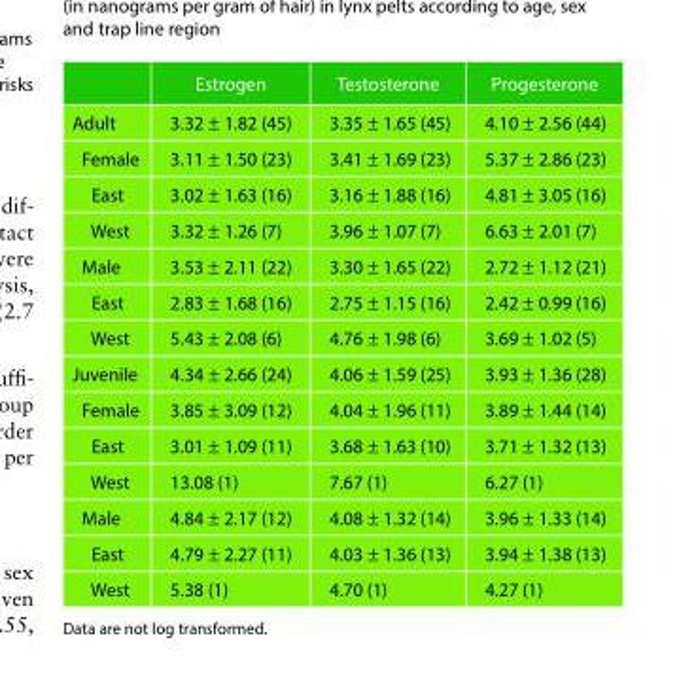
<table><thead><tr><td></td><td>Estrogen</td><td>Testosterone</td><td>Progesterone</td></tr></thead><tbody><tr><td>Adult</td><td>3.32 ± 1.82 (45)</td><td>3.35 ± 1.65 (45)</td><td>4.10 ± 2.56 (44)</td></tr><tr><td>Female</td><td>3.11 ± 1.50 (23)</td><td>3.41 ± 1.69 (23)</td><td>5.37 ± 2.86 (23)</td></tr><tr><td>East</td><td>3.02 ± 1.63 (16)</td><td>3.16 ± 1.88 (16)</td><td>4.81 ± 3.05 (16)</td></tr><tr><td>West</td><td>3.32 ± 1.26 (7)</td><td>3.96 ± 1.07 (7)</td><td>6.63 ± 2.01 (7)</td></tr><tr><td>Male</td><td>3.53 ± 2.11 (22)</td><td>3.30 ± 1.65 (22)</td><td>2.72 ± 1.12 (21)</td></tr><tr><td>East</td><td>2.83 ± 1.68 (16)</td><td>2.75 ± 1.15 (16)</td><td>2.42 ± 0.99 (16)</td></tr><tr><td>West</td><td>5.43 ± 2.08 (6)</td><td>4.76 ± 1.98 (6)</td><td>3.69 ± 1.02 (5)</td></tr><tr><td>Juvenile</td><td>4.34 ± 2.66 (24)</td><td>4.06 ± 1.59 (25)</td><td>3.93 ± 1.36 (28)</td></tr><tr><td>Female</td><td>3.85 ± 3.09 (12)</td><td>4.04 ± 1.96 (11)</td><td>3.89 ± 1.44 (14)</td></tr><tr><td>East</td><td>3.01 ± 1.09 (11)</td><td>3.68 ± 1.63 (10)</td><td>3.71 ± 1.32 (13)</td></tr><tr><td>West</td><td>13.08 (1)</td><td>7.67 (1)</td><td>6.27 (1)</td></tr><tr><td>Male</td><td>4.84 ± 2.17 (12)</td><td>4.08 ± 1.32 (14)</td><td>3.96 ± 1.33 (14)</td></tr><tr><td>East</td><td>4.79 ± 2.27 (11)</td><td>4.03 ± 1.36 (13)</td><td>3.94 ± 1.38 (13)</td></tr><tr><td>West</td><td>5.38 (1)</td><td>4.70 (1)</td><td>4.27 (1)</td></tr></tbody></table>